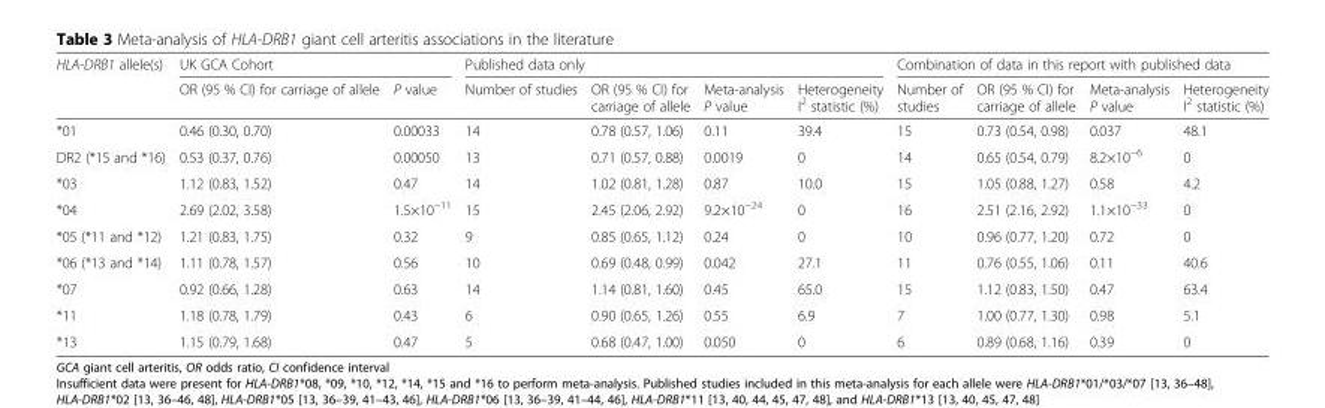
<table><thead><tr><td rowspan="2">HLA-DRB1 allele(s)</td><td colspan="2">UK GCA Cohort</td><td colspan="4">Published data only</td><td colspan="4">Combination of data in this report with published data</td></tr><tr><td>OR (95 % CI) for carriage of allele</td><td>P value</td><td>Number of studies</td><td>OR (95 % CI) for carriage of allele</td><td>Meta-analysis P value</td><td>Heterogeneity I<sup>2</sup> statistic (%)</td><td>Number of studies</td><td>OR (95 % CI) for carriage of allele</td><td>Meta-analysis P value</td><td>Heterogeneity I<sup>2</sup> statistic (%)</td></tr></thead><tbody><tr><td>*01</td><td>0.46 (0.30, 0.70)</td><td>0.00033</td><td>14</td><td>0.78 (0.57, 1.06)</td><td>0.11</td><td>39.4</td><td>15</td><td>0.73 (0.54, 0.98)</td><td>0.037</td><td>48.1</td></tr><tr><td>DR2 (*15 and *16)</td><td>0.53 (0.37, 0.76)</td><td>0.00050</td><td>13</td><td>0.71 (0.57, 0.88)</td><td>0.0019</td><td>0</td><td>14</td><td>0.65 (0.54, 0.79)</td><td>8.2×10<sup>−6</sup></td><td>0</td></tr><tr><td>*03</td><td>1.12 (0.83, 1.52)</td><td>0.47</td><td>14</td><td>1.02 (0.81, 1.28)</td><td>0.87</td><td>10.0</td><td>15</td><td>1.05 (0.88, 1.27)</td><td>0.58</td><td>4.2</td></tr><tr><td>*04</td><td>2.69 (2.02, 3.58)</td><td>1.5×10<sup>−11</sup></td><td>15</td><td>2.45 (2.06, 2.92)</td><td>9.2×10<sup>−24</sup></td><td>0</td><td>16</td><td>2.51 (2.16, 2.92)</td><td>1.1×10<sup>−33</sup></td><td>0</td></tr><tr><td>*05 (*11 and *12)</td><td>1.21 (0.83, 1.75)</td><td>0.32</td><td>9</td><td>0.85 (0.65, 1.12)</td><td>0.24</td><td>0</td><td>10</td><td>0.96 (0.77, 1.20)</td><td>0.72</td><td>0</td></tr><tr><td>*06 (*13 and *14)</td><td>1.11 (0.78, 1.57)</td><td>0.56</td><td>10</td><td>0.69 (0.48, 0.99)</td><td>0.042</td><td>27.1</td><td>11</td><td>0.76 (0.55, 1.06)</td><td>0.11</td><td>40.6</td></tr><tr><td>*07</td><td>0.92 (0.66, 1.28)</td><td>0.63</td><td>14</td><td>1.14 (0.81, 1.60)</td><td>0.45</td><td>65.0</td><td>15</td><td>1.12 (0.83, 1.50)</td><td>0.47</td><td>63.4</td></tr><tr><td>*11</td><td>1.18 (0.78, 1.79)</td><td>0.43</td><td>6</td><td>0.90 (0.65, 1.26)</td><td>0.55</td><td>6.9</td><td>7</td><td>1.00 (0.77, 1.30)</td><td>0.98</td><td>5.1</td></tr><tr><td>*13</td><td>1.15 (0.79, 1.68)</td><td>0.47</td><td>5</td><td>0.68 (0.47, 1.00)</td><td>0.050</td><td>0</td><td>6</td><td>0.89 (0.68, 1.16)</td><td>0.39</td><td>0</td></tr></tbody></table>